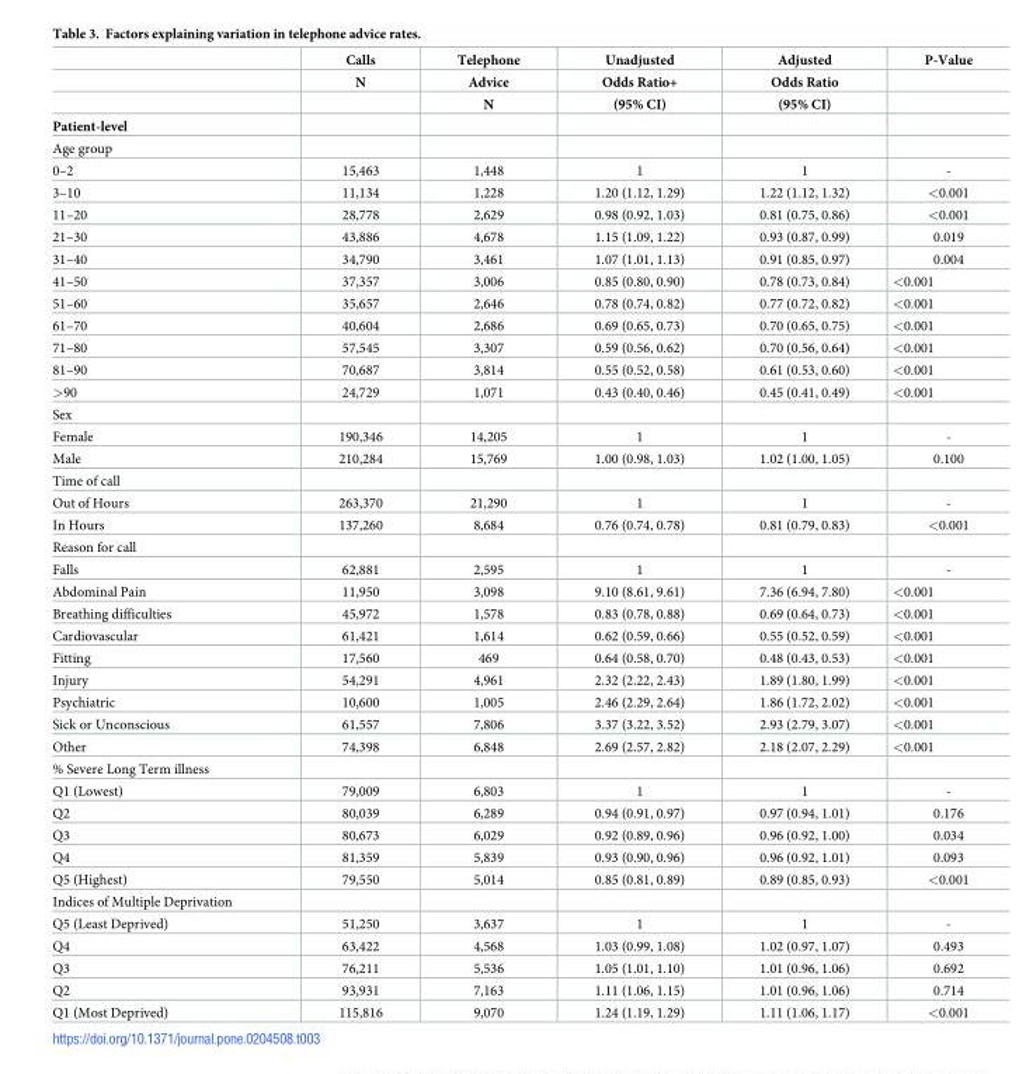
<table><thead><tr><td rowspan="3"></td><td rowspan="3">Calls N</td><td rowspan="3">Telephone Advice N</td><td rowspan="3">Unadjusted Odds Ratio+ (95% CI)</td><td rowspan="3">Adjusted Odds Ratio (95% CI)</td><td rowspan="3">P-Value</td></tr><tr></tr><tr></tr></thead><tbody><tr><td colspan="6">Patient-level</td></tr><tr><td colspan="6">Age group</td></tr><tr><td>0–2</td><td>15,463</td><td>1,448</td><td>1</td><td>1</td><td>-</td></tr><tr><td>3–10</td><td>11,134</td><td>1,228</td><td>1.20 (1.12, 1.29)</td><td>1.22 (1.12, 1.32)</td><td>&lt;0.001</td></tr><tr><td>11–20</td><td>28,778</td><td>2,629</td><td>0.98 (0.92, 1.03)</td><td>0.81 (0.75, 0.86)</td><td>&lt;0.001</td></tr><tr><td>21–30</td><td>43,886</td><td>4,678</td><td>1.15 (1.09, 1.22)</td><td>0.93 (0.87, 0.99)</td><td>0.019</td></tr><tr><td>31–40</td><td>34,790</td><td>3,461</td><td>1.07 (1.01, 1.13)</td><td>0.91 (0.85, 0.97)</td><td>0.004</td></tr><tr><td>41–50</td><td>37,357</td><td>3,006</td><td>0.85 (0.80, 0.90)</td><td>0.78 (0.73, 0.84)</td><td>&lt;0.001</td></tr><tr><td>51–60</td><td>35,657</td><td>2,646</td><td>0.78 (0.74, 0.82)</td><td>0.77 (0.72, 0.82)</td><td>&lt;0.001</td></tr><tr><td>61–70</td><td>40,604</td><td>2,686</td><td>0.69 (0.65, 0.73)</td><td>0.70 (0.65, 0.75)</td><td>&lt;0.001</td></tr><tr><td>71–80</td><td>57,545</td><td>3,307</td><td>0.59 (0.56, 0.62)</td><td>0.70 (0.56, 0.64)</td><td>&lt;0.001</td></tr><tr><td>81–90</td><td>70,687</td><td>3,814</td><td>0.55 (0.52, 0.58)</td><td>0.61 (0.53, 0.60)</td><td>&lt;0.001</td></tr><tr><td>&gt;90</td><td>24,729</td><td>1,071</td><td>0.43 (0.40, 0.46)</td><td>0.45 (0.41, 0.49)</td><td>&lt;0.001</td></tr><tr><td colspan="6">Sex</td></tr><tr><td>Female</td><td>190,346</td><td>14,205</td><td>1</td><td>1</td><td>-</td></tr><tr><td>Male</td><td>210,284</td><td>15,769</td><td>1.00 (0.98, 1.03)</td><td>1.02 (1.00, 1.05)</td><td>0.100</td></tr><tr><td colspan="6">Time of call</td></tr><tr><td>Out of Hours</td><td>263,370</td><td>21,290</td><td>1</td><td>1</td><td>-</td></tr><tr><td>In Hours</td><td>137,260</td><td>8,684</td><td>0.76 (0.74, 0.78)</td><td>0.81 (0.79, 0.83)</td><td>&lt;0.001</td></tr><tr><td colspan="6">Reason for call</td></tr><tr><td>Falls</td><td>62,881</td><td>2,595</td><td>1</td><td>1</td><td>-</td></tr><tr><td>Abdominal Pain</td><td>11,950</td><td>3,098</td><td>9.10 (8.61, 9.61)</td><td>7.36 (6.94, 7.80)</td><td>&lt;0.001</td></tr><tr><td>Breathing difficulties</td><td>45,972</td><td>1,578</td><td>0.83 (0.78, 0.88)</td><td>0.69 (0.64, 0.73)</td><td>&lt;0.001</td></tr><tr><td>Cardiovascular</td><td>61,421</td><td>1,614</td><td>0.62 (0.59, 0.66)</td><td>0.55 (0.52, 0.59)</td><td>&lt;0.001</td></tr><tr><td>Fitting</td><td>17,560</td><td>469</td><td>0.64 (0.58, 0.70)</td><td>0.48 (0.43, 0.53)</td><td>&lt;0.001</td></tr><tr><td>Injury</td><td>54,291</td><td>4,961</td><td>2.32 (2.22, 2.43)</td><td>1.89 (1.80, 1.99)</td><td>&lt;0.001</td></tr><tr><td>Psychiatric</td><td>10,600</td><td>1,005</td><td>2.46 (2.29, 2.64)</td><td>1.86 (1.72, 2.02)</td><td>&lt;0.001</td></tr><tr><td>Sick or Unconscious</td><td>61,557</td><td>7,806</td><td>3.37 (3.22, 3.52)</td><td>2.93 (2.79, 3.07)</td><td>&lt;0.001</td></tr><tr><td>Other</td><td>74,398</td><td>6,848</td><td>2.69 (2.57, 2.82)</td><td>2.18 (2.07, 2.29)</td><td>&lt;0.001</td></tr><tr><td colspan="6">% Severe Long Term illness</td></tr><tr><td>Q1 (Lowest)</td><td>79,009</td><td>6,803</td><td>1</td><td>1</td><td>-</td></tr><tr><td>Q2</td><td>80,039</td><td>6,289</td><td>0.94 (0.91, 0.97)</td><td>0.97 (0.94, 1.01)</td><td>0.176</td></tr><tr><td>Q3</td><td>80,673</td><td>6,029</td><td>0.92 (0.89, 0.96)</td><td>0.96 (0.92, 1.00)</td><td>0.034</td></tr><tr><td>Q4</td><td>81,359</td><td>5,839</td><td>0.93 (0.90, 0.96)</td><td>0.96 (0.92, 1.01)</td><td>0.093</td></tr><tr><td>Q5 (Highest)</td><td>79,550</td><td>5,014</td><td>0.85 (0.81, 0.89)</td><td>0.89 (0.85, 0.93)</td><td>&lt;0.001</td></tr><tr><td colspan="6">Indices of Multiple Deprivation</td></tr><tr><td>Q5 (Least Deprived)</td><td>51,250</td><td>3,637</td><td>1</td><td>1</td><td>-</td></tr><tr><td>Q4</td><td>63,422</td><td>4,568</td><td>1.03 (0.99, 1.08)</td><td>1.02 (0.97, 1.07)</td><td>0.493</td></tr><tr><td>Q3</td><td>76,211</td><td>5,536</td><td>1.05 (1.01, 1.10)</td><td>1.01 (0.96, 1.06)</td><td>0.692</td></tr><tr><td>Q2</td><td>93,931</td><td>7,163</td><td>1.11 (1.06, 1.15)</td><td>1.01 (0.96, 1.06)</td><td>0.714</td></tr><tr><td>Q1 (Most Deprived)</td><td>115,816</td><td>9,070</td><td>1.24 (1.19, 1.29)</td><td>1.11 (1.06, 1.17)</td><td>&lt;0.001</td></tr></tbody></table>